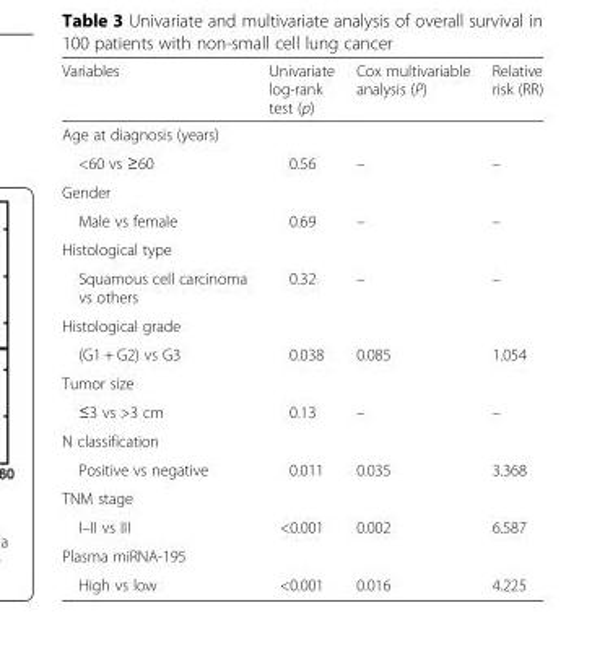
<table><thead><tr><td>Variables</td><td>Univariate log-rank test (p)</td><td>Cox multivariable analysis (P)</td><td>Relative risk (RR)</td></tr></thead><tbody><tr><td colspan="4">Age at diagnosis (years)</td></tr><tr><td>&lt;60 vs ≥60</td><td>0.56</td><td>–</td><td>–</td></tr><tr><td colspan="4">Gender</td></tr><tr><td>Male vs female</td><td>0.69</td><td>–</td><td>–</td></tr><tr><td colspan="4">Histological type</td></tr><tr><td>Squamous cell carcinoma vs others</td><td>0.32</td><td>–</td><td>–</td></tr><tr><td colspan="4">Histological grade</td></tr><tr><td>(G1 + G2) vs G3</td><td>0.038</td><td>0.085</td><td>1.054</td></tr><tr><td colspan="4">Tumor size</td></tr><tr><td>≤3 vs &gt;3 cm</td><td>0.13</td><td>–</td><td>–</td></tr><tr><td colspan="4">N classification</td></tr><tr><td>Positive vs negative</td><td>0.011</td><td>0.035</td><td>3.368</td></tr><tr><td colspan="4">TNM stage</td></tr><tr><td>I–II vs III</td><td>&lt;0.001</td><td>0.002</td><td>6.587</td></tr><tr><td colspan="4">Plasma miRNA-195</td></tr><tr><td>High vs low</td><td>&lt;0.001</td><td>0.016</td><td>4.225</td></tr></tbody></table>